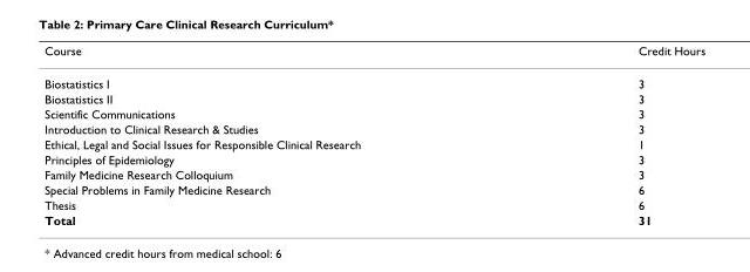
<table><thead><tr><td>Course</td><td>Credit Hours</td></tr></thead><tbody><tr><td>Biostatistics I</td><td>3</td></tr><tr><td>Biostatistics II</td><td>3</td></tr><tr><td>Scientific Communications</td><td>3</td></tr><tr><td>Introduction to Clinical Research &amp; Studies</td><td>3</td></tr><tr><td>Ethical, Legal and Social Issues for Responsible Clinical Research</td><td>1</td></tr><tr><td>Principles of Epidemiology</td><td>3</td></tr><tr><td>Family Medicine Research Colloquium</td><td>3</td></tr><tr><td>Special Problems in Family Medicine Research</td><td>6</td></tr><tr><td>Thesis</td><td>6</td></tr><tr><td>Total</td><td>31</td></tr></tbody></table>